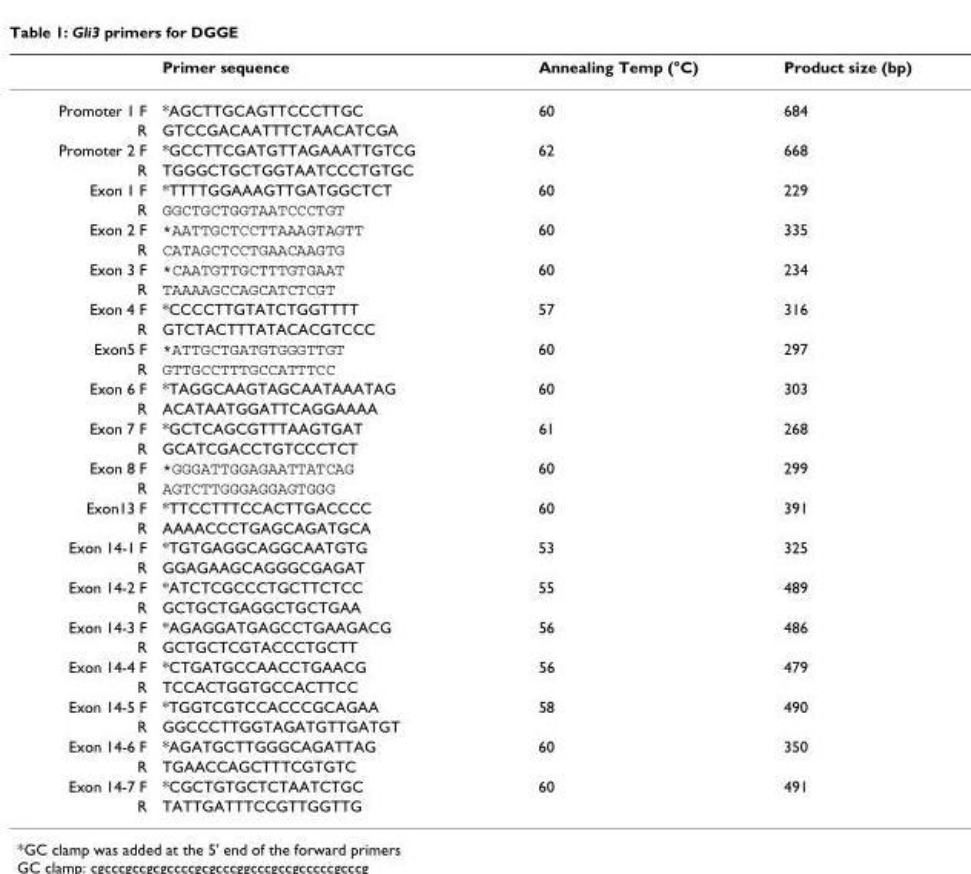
<table><thead><tr><td></td><td>Primer sequence</td><td>Annealing Temp (°C)</td><td>Product size (bp)</td></tr></thead><tbody><tr><td>Promoter 1 F</td><td>*AGCTTGCAGTTCCCTTGC</td><td>60</td><td>684</td></tr><tr><td>R</td><td>GTCCGACAATTTCTAACATCGA</td><td></td><td></td></tr><tr><td>Promoter 2 F</td><td>*GCCTTCGATGTTAGAAATTGTCG</td><td>62</td><td>668</td></tr><tr><td>R</td><td>TGGGCTGCTGGTAATCCCTGTGC</td><td></td><td></td></tr><tr><td>Exon 1 F</td><td>*TTTTGGAAAGTTGATGGCTCT</td><td>60</td><td>229</td></tr><tr><td>R</td><td>GGCTGCTGGTAATCCCTGT</td><td></td><td></td></tr><tr><td>Exon 2 F</td><td>*AATTGCTCCTTAAAGTAGTT</td><td>60</td><td>335</td></tr><tr><td>R</td><td>CATAGCTCCTGAACAAGTG</td><td></td><td></td></tr><tr><td>Exon 3 F</td><td>*CAATGTTGCTTTGTGAAT</td><td>60</td><td>234</td></tr><tr><td>R</td><td>TAAAAGCCAGCATCTCGT</td><td></td><td></td></tr><tr><td>Exon 4 F</td><td>*CCCCTTGTATCTGGTTTT</td><td>57</td><td>316</td></tr><tr><td>R</td><td>GTCTACTTTATACACGTCCC</td><td></td><td></td></tr><tr><td>Exon5 F</td><td>*ATTGCTGATGTGGGTTGT</td><td>60</td><td>297</td></tr><tr><td>R</td><td>GTTGCCTTTGCCATTTCC</td><td></td><td></td></tr><tr><td>Exon 6 F</td><td>*TAGGCAAGTAGCAATAAATAG</td><td>60</td><td>303</td></tr><tr><td>R</td><td>ACATAATGGATTCAGGAAAA</td><td></td><td></td></tr><tr><td>Exon 7 F</td><td>*GCTCAGCGTTTAAGTGAT</td><td>61</td><td>268</td></tr><tr><td>R</td><td>GCATCGACCTGTCCCTCT</td><td></td><td></td></tr><tr><td>Exon 8 F</td><td>*GGGATTGGAGAATTATCAG</td><td>60</td><td>299</td></tr><tr><td>R</td><td>AGTCTTGGGAGGAGTGGG</td><td></td><td></td></tr><tr><td>Exon13 F</td><td>*TTCCTTTCCACTTGACCCC</td><td>60</td><td>391</td></tr><tr><td>R</td><td>AAAACCCTGAGCAGATGCA</td><td></td><td></td></tr><tr><td>Exon 14-1 F</td><td>*TGTGAGGCAGGCAATGTG</td><td>53</td><td>325</td></tr><tr><td>R</td><td>GGAGAAGCAGGGCGAGAT</td><td></td><td></td></tr><tr><td>Exon 14-2 F</td><td>*ATCTCGCCCTGCTTCTCC</td><td>55</td><td>489</td></tr><tr><td>R</td><td>GCTGCTGAGGCTGCTGAA</td><td></td><td></td></tr><tr><td>Exon 14-3 F</td><td>*AGAGGATGAGCCTGAAGACG</td><td>56</td><td>486</td></tr><tr><td>R</td><td>GCTGCTCGTACCCTGCTT</td><td></td><td></td></tr><tr><td>Exon 14-4 F</td><td>*CTGATGCCAACCTGAACG</td><td>56</td><td>479</td></tr><tr><td>R</td><td>TCCACTGGTGCCACTTCC</td><td></td><td></td></tr><tr><td>Exon 14-5 F</td><td>*TGGTCGTCCACCCGCAGAA</td><td>58</td><td>490</td></tr><tr><td>R</td><td>GGCCCTTGGTAGATGTTGATGT</td><td></td><td></td></tr><tr><td>Exon 14-6 F</td><td>*AGATGCTTGGGCAGATTAG</td><td>60</td><td>350</td></tr><tr><td>R</td><td>TGAACCAGCTTTCGTGTC</td><td></td><td></td></tr><tr><td>Exon 14-7 F</td><td>*CGCTGTGCTCTAATCTGC</td><td>60</td><td>491</td></tr><tr><td>R</td><td>TATTGATTTCCGTTGGTTG</td><td></td><td></td></tr></tbody></table>